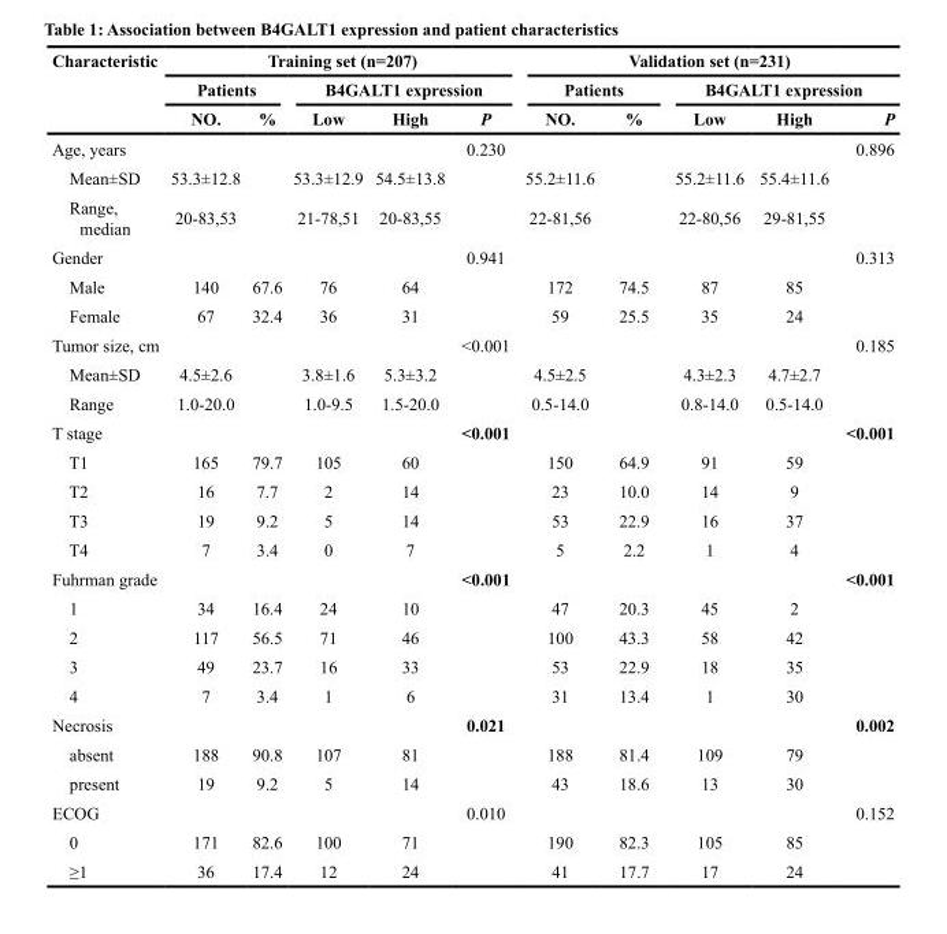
<table><thead><tr><td rowspan="3">Characteristic</td><td colspan="5">Training set (n=207)</td><td colspan="5">Validation set (n=231)</td></tr><tr><td colspan="2">Patients</td><td colspan="3">B4GALT1 expression</td><td colspan="2">Patients</td><td colspan="3">B4GALT1 expression</td></tr><tr><td>NO.</td><td>%</td><td>Low</td><td>High</td><td>P</td><td>NO.</td><td>%</td><td>Low</td><td>High</td><td>P</td></tr></thead><tbody><tr><td>Age, years</td><td></td><td></td><td></td><td></td><td>0.230</td><td></td><td></td><td></td><td></td><td>0.896</td></tr><tr><td>Mean±SD</td><td>53.3±12.8</td><td></td><td>53.3±12.9</td><td>54.5±13.8</td><td></td><td>55.2±11.6</td><td></td><td>55.2±11.6</td><td>55.4±11.6</td><td></td></tr><tr><td>Range, median</td><td>20-83,53</td><td></td><td>21-78,51</td><td>20-83,55</td><td></td><td>22-81,56</td><td></td><td>22-80,56</td><td>29-81,55</td><td></td></tr><tr><td>Gender</td><td></td><td></td><td></td><td></td><td>0.941</td><td></td><td></td><td></td><td></td><td>0.313</td></tr><tr><td>Male</td><td>140</td><td>67.6</td><td>76</td><td>64</td><td></td><td>172</td><td>74.5</td><td>87</td><td>85</td><td></td></tr><tr><td>Female</td><td>67</td><td>32.4</td><td>36</td><td>31</td><td></td><td>59</td><td>25.5</td><td>35</td><td>24</td><td></td></tr><tr><td>Tumor size, cm</td><td></td><td></td><td></td><td></td><td>&lt;0.001</td><td></td><td></td><td></td><td></td><td>0.185</td></tr><tr><td>Mean±SD</td><td>4.5±2.6</td><td></td><td>3.8±1.6</td><td>5.3±3.2</td><td></td><td>4.5±2.5</td><td></td><td>4.3±2.3</td><td>4.7±2.7</td><td></td></tr><tr><td>Range</td><td>1.0-20.0</td><td></td><td>1.0-9.5</td><td>1.5-20.0</td><td></td><td>0.5-14.0</td><td></td><td>0.8-14.0</td><td>0.5-14.0</td><td></td></tr><tr><td>T stage</td><td></td><td></td><td></td><td></td><td>&lt;0.001</td><td></td><td></td><td></td><td></td><td>&lt;0.001</td></tr><tr><td>T1</td><td>165</td><td>79.7</td><td>105</td><td>60</td><td></td><td>150</td><td>64.9</td><td>91</td><td>59</td><td></td></tr><tr><td>T2</td><td>16</td><td>7.7</td><td>2</td><td>14</td><td></td><td>23</td><td>10.0</td><td>14</td><td>9</td><td></td></tr><tr><td>T3</td><td>19</td><td>9.2</td><td>5</td><td>14</td><td></td><td>53</td><td>22.9</td><td>16</td><td>37</td><td></td></tr><tr><td>T4</td><td>7</td><td>3.4</td><td>0</td><td>7</td><td></td><td>5</td><td>2.2</td><td>1</td><td>4</td><td></td></tr><tr><td>Fuhrman grade</td><td></td><td></td><td></td><td></td><td>&lt;0.001</td><td></td><td></td><td></td><td></td><td>&lt;0.001</td></tr><tr><td>1</td><td>34</td><td>16.4</td><td>24</td><td>10</td><td></td><td>47</td><td>20.3</td><td>45</td><td>2</td><td></td></tr><tr><td>2</td><td>117</td><td>56.5</td><td>71</td><td>46</td><td></td><td>100</td><td>43.3</td><td>58</td><td>42</td><td></td></tr><tr><td>3</td><td>49</td><td>23.7</td><td>16</td><td>33</td><td></td><td>53</td><td>22.9</td><td>18</td><td>35</td><td></td></tr><tr><td>4</td><td>7</td><td>3.4</td><td>1</td><td>6</td><td></td><td>31</td><td>13.4</td><td>1</td><td>30</td><td></td></tr><tr><td>Necrosis</td><td></td><td></td><td></td><td></td><td>0.021</td><td></td><td></td><td></td><td></td><td>0.002</td></tr><tr><td>absent</td><td>188</td><td>90.8</td><td>107</td><td>81</td><td></td><td>188</td><td>81.4</td><td>109</td><td>79</td><td></td></tr><tr><td>present</td><td>19</td><td>9.2</td><td>5</td><td>14</td><td></td><td>43</td><td>18.6</td><td>13</td><td>30</td><td></td></tr><tr><td>ECOG</td><td></td><td></td><td></td><td></td><td>0.010</td><td></td><td></td><td></td><td></td><td>0.152</td></tr><tr><td>0</td><td>171</td><td>82.6</td><td>100</td><td>71</td><td></td><td>190</td><td>82.3</td><td>105</td><td>85</td><td></td></tr><tr><td>≥1</td><td>36</td><td>17.4</td><td>12</td><td>24</td><td></td><td>41</td><td>17.7</td><td>17</td><td>24</td><td></td></tr></tbody></table>